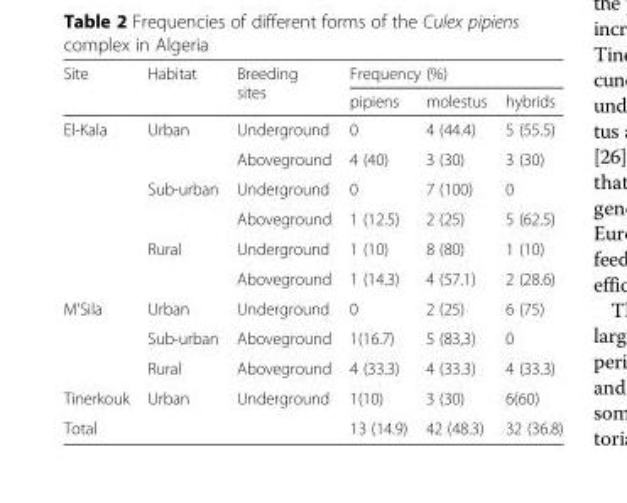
<table><thead><tr><td rowspan="2">Site</td><td rowspan="2">Habitat</td><td rowspan="2">Breeding sites</td><td colspan="3">Frequency (%)</td></tr><tr><td>pipiens</td><td>molestus</td><td>hybrids</td></tr></thead><tbody><tr><td rowspan="6">El-Kala</td><td rowspan="2">Urban</td><td>Underground</td><td>0</td><td>4 (44.4)</td><td>5 (55.5)</td></tr><tr><td>Aboveground</td><td>4 (40)</td><td>3 (30)</td><td>3 (30)</td></tr><tr><td rowspan="2">Sub-urban</td><td>Underground</td><td>0</td><td>7 (100)</td><td>0</td></tr><tr><td>Aboveground</td><td>1 (12.5)</td><td>2 (25)</td><td>5 (62.5)</td></tr><tr><td rowspan="2">Rural</td><td>Underground</td><td>1 (10)</td><td>8 (80)</td><td>1 (10)</td></tr><tr><td>Aboveground</td><td>1 (14.3)</td><td>4 (57.1)</td><td>2 (28.6)</td></tr><tr><td rowspan="3">M’Sila</td><td>Urban</td><td>Underground</td><td>0</td><td>2 (25)</td><td>6 (75)</td></tr><tr><td>Sub-urban</td><td>Aboveground</td><td>1(16.7)</td><td>5 (83,3)</td><td>0</td></tr><tr><td>Rural</td><td>Aboveground</td><td>4 (33.3)</td><td>4 (33.3)</td><td>4 (33.3)</td></tr><tr><td>Tinerkouk</td><td>Urban</td><td>Underground</td><td>1(10)</td><td>3 (30)</td><td>6(60)</td></tr><tr><td>Total</td><td></td><td></td><td>13 (14.9)</td><td>42 (48.3)</td><td>32 (36.8)</td></tr></tbody></table>